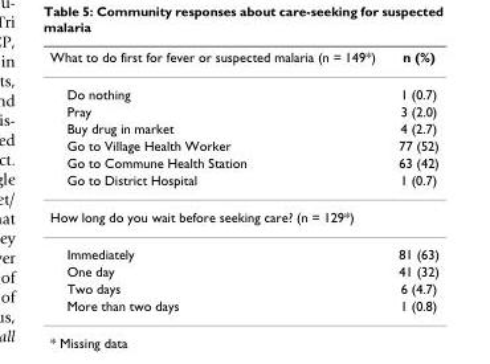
<table><thead><tr><td>What to do first for fever or suspected malaria (n = 149*)</td><td>n (%)</td></tr></thead><tbody><tr><td>Do nothing</td><td>1 (0.7)</td></tr><tr><td>Pray</td><td>3 (2.0)</td></tr><tr><td>Buy drug in market</td><td>4 (2.7)</td></tr><tr><td>Go to Village Health Worker</td><td>77 (52)</td></tr><tr><td>Go to Commune Health Station</td><td>63 (42)</td></tr><tr><td>Go to District Hospital</td><td>1 (0.7)</td></tr><tr><td colspan="2">How long do you wait before seeking care? (n = 129*)</td></tr><tr><td>Immediately</td><td>81 (63)</td></tr><tr><td>One day</td><td>41 (32)</td></tr><tr><td>Two days</td><td>6 (4.7)</td></tr><tr><td>More than two days</td><td>1 (0.8)</td></tr></tbody></table>